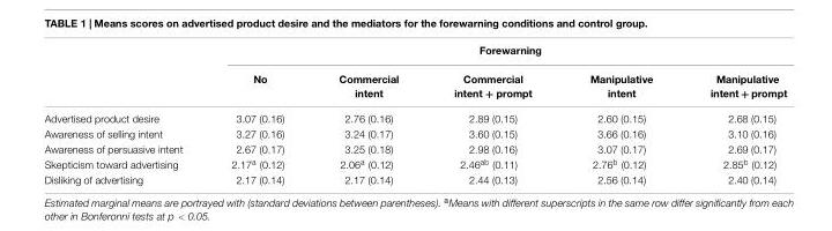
<table><thead><tr><td rowspan="2"></td><td colspan="5">Forewarning</td></tr><tr><td>No</td><td>Commercial intent</td><td>Commercial intent + prompt</td><td>Manipulative intent</td><td>Manipulative intent + prompt</td></tr></thead><tbody><tr><td>Advertised product desire</td><td>3.07 (0.16)</td><td>2.76 (0.16)</td><td>2.89 (0.15)</td><td>2.60 (0.15)</td><td>2.68 (0.15)</td></tr><tr><td>Awareness of selling intent</td><td>3.27 (0.16)</td><td>3.24 (0.17)</td><td>3.60 (0.15)</td><td>3.66 (0.16)</td><td>3.10 (0.16)</td></tr><tr><td>Awareness of persuasive intent</td><td>2.67 (0.17)</td><td>3.25 (0.18)</td><td>2.98 (0.16)</td><td>3.07 (0.17)</td><td>2.69 (0.17)</td></tr><tr><td>Skepticism toward advertising</td><td>2.17<sup>a</sup> (0.12)</td><td>2.06<sup>a</sup> (0.12)</td><td>2.46<sup>ab</sup> (0.11)</td><td>2.76<sup>b</sup> (0.12)</td><td>2.85<sup>b</sup> (0.12)</td></tr><tr><td>Disliking of advertising</td><td>2.17 (0.14)</td><td>2.17 (0.14)</td><td>2.44 (0.13)</td><td>2.56 (0.14)</td><td>2.40 (0.14)</td></tr></tbody></table>